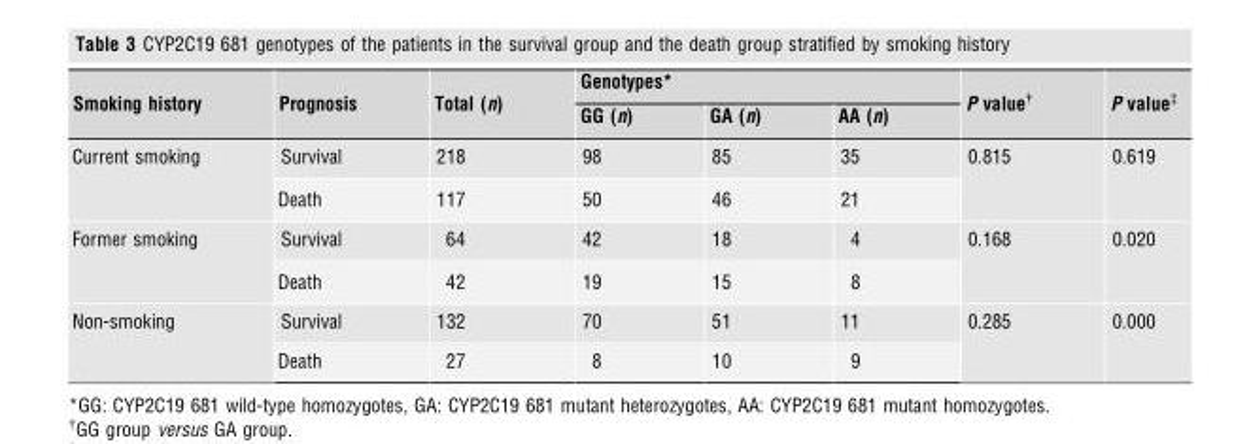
<table><thead><tr><td rowspan="2">Smoking history</td><td rowspan="2">Prognosis</td><td rowspan="2">Total (n)</td><td colspan="3">Genotypes*</td><td rowspan="2">P value†</td><td rowspan="2">P value‡</td></tr><tr><td>GG (n)</td><td>GA (n)</td><td>AA (n)</td></tr></thead><tbody><tr><td rowspan="2">Current smoking</td><td>Survival</td><td>218</td><td>98</td><td>85</td><td>35</td><td rowspan="2">0.815</td><td rowspan="2">0.619</td></tr><tr><td>Death</td><td>117</td><td>50</td><td>46</td><td>21</td></tr><tr><td rowspan="2">Former smoking</td><td>Survival</td><td>64</td><td>42</td><td>18</td><td>4</td><td rowspan="2">0.168</td><td rowspan="2">0.020</td></tr><tr><td>Death</td><td>42</td><td>19</td><td>15</td><td>8</td></tr><tr><td rowspan="2">Non-smoking</td><td>Survival</td><td>132</td><td>70</td><td>51</td><td>11</td><td rowspan="2">0.285</td><td rowspan="2">0.000</td></tr><tr><td>Death</td><td>27</td><td>8</td><td>10</td><td>9</td></tr></tbody></table>